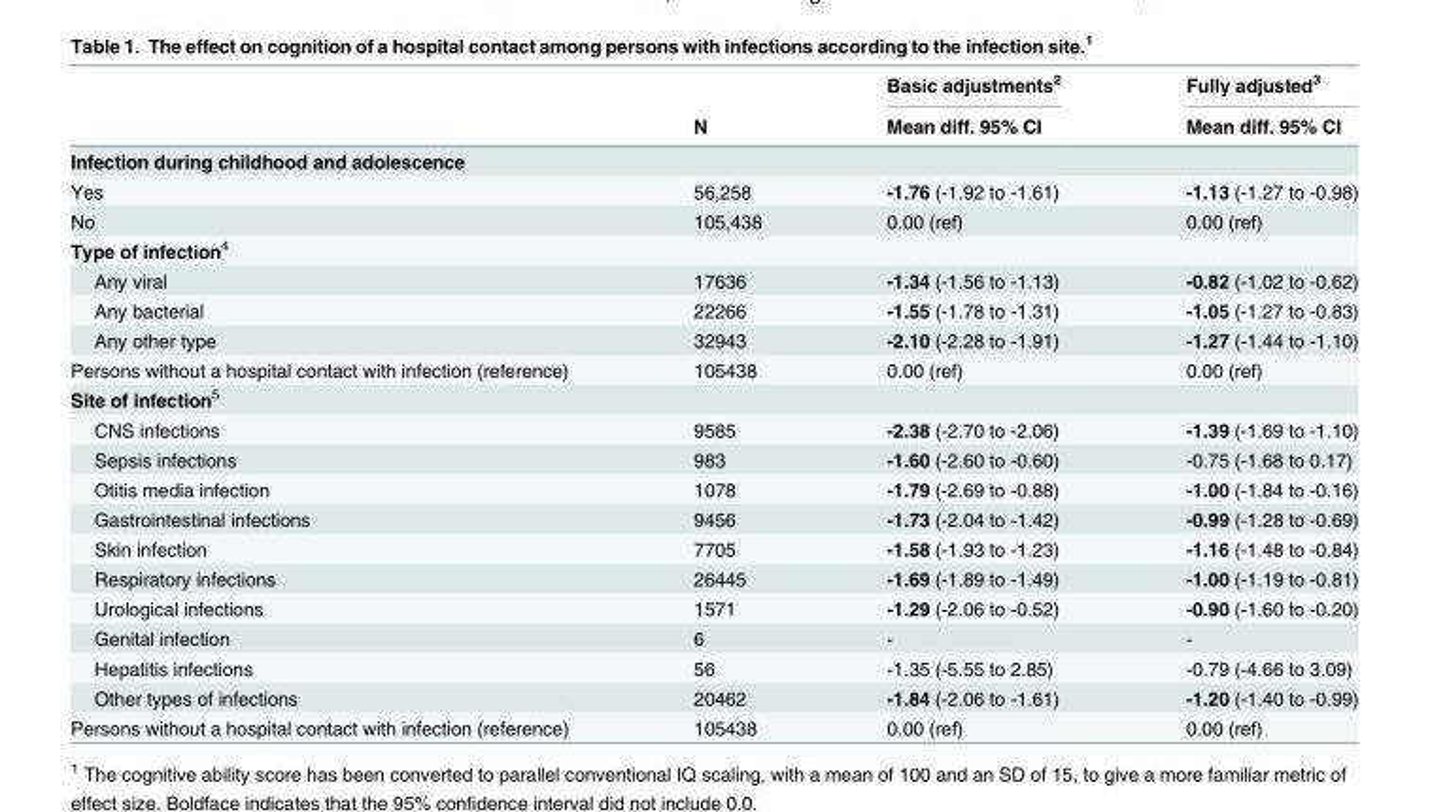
<table><thead><tr><td rowspan="2"></td><td rowspan="2">N</td><td rowspan="2">Basic adjustments<sup>2</sup> Mean diff. 95% CI</td><td rowspan="2">Fully adjusted<sup>3</sup> Mean diff. 95% CI</td></tr><tr></tr></thead><tbody><tr><td colspan="4">Infection during childhood and adolescence</td></tr><tr><td>Yes</td><td>56,258</td><td>-1.76 (-1.92 to -1.61)</td><td>-1.13 (-1.27 to -0.98)</td></tr><tr><td>No</td><td>105,438</td><td>0.00 (ref)</td><td>0.00 (ref)</td></tr><tr><td colspan="4">Type of infection<sup>4</sup></td></tr><tr><td>Any viral</td><td>17636</td><td>-1.34 (-1.56 to -1.13)</td><td>-0.82 (-1.02 to -0.62)</td></tr><tr><td>Any bacterial</td><td>22266</td><td>-1.55 (-1.78 to -1.31)</td><td>-1.05 (-1.27 to -0.83)</td></tr><tr><td>Any other type</td><td>32943</td><td>-2.10 (-2.28 to -1.91)</td><td>-1.27 (-1.44 to -1.10)</td></tr><tr><td>Persons without a hospital contact with infection (reference)</td><td>105438</td><td>0.00 (ref)</td><td>0.00 (ref)</td></tr><tr><td colspan="4">Site of infection<sup>5</sup></td></tr><tr><td>CNS infections</td><td>9585</td><td>-2.38 (-2.70 to -2.06)</td><td>-1.39 (-1.69 to -1.10)</td></tr><tr><td>Sepsis infections</td><td>983</td><td>-1.60 (-2.60 to -0.60)</td><td>-0.75 (-1.68 to 0.17)</td></tr><tr><td>Otitis media infection</td><td>1078</td><td>-1.79 (-2.69 to -0.88)</td><td>-1.00 (-1.84 to -0.16)</td></tr><tr><td>Gastrointestinal infections</td><td>9456</td><td>-1.73 (-2.04 to -1.42)</td><td>-0.99 (-1.28 to -0.69)</td></tr><tr><td>Skin infection</td><td>7705</td><td>-1.58 (-1.93 to -1.23)</td><td>-1.16 (-1.48 to -0.84)</td></tr><tr><td>Respiratory infections</td><td>26445</td><td>-1.69 (-1.89 to -1.49)</td><td>-1.00 (-1.19 to -0.81)</td></tr><tr><td>Urological infections</td><td>1571</td><td>-1.29 (-2.06 to -0.52)</td><td>-0.90 (-1.60 to -0.20)</td></tr><tr><td>Genital infection</td><td>6</td><td>-</td><td>-</td></tr><tr><td>Hepatitis infections</td><td>56</td><td>-1.35 (-5.55 to 2.85)</td><td>-0.79 (-4.66 to 3.09)</td></tr><tr><td>Other types of infections</td><td>20462</td><td>-1.84 (-2.06 to -1.61)</td><td>-1.20 (-1.40 to -0.99)</td></tr><tr><td>Persons without a hospital contact with infection (reference)</td><td>105438</td><td>0.00 (ref)</td><td>0.00 (ref)</td></tr></tbody></table>